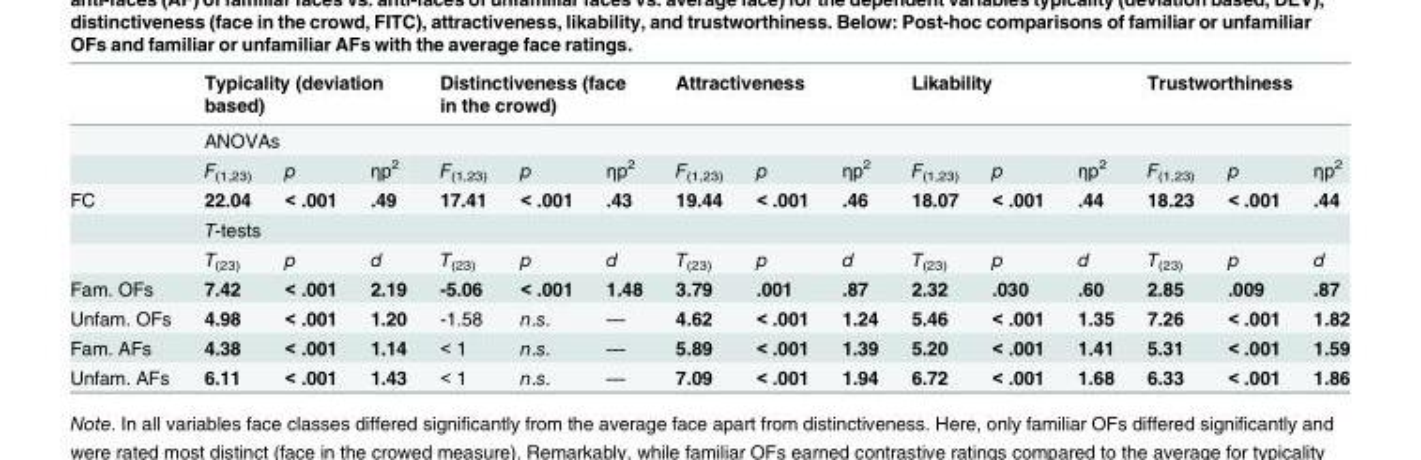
<table><thead><tr><td rowspan="3"></td><td colspan="3">Typicality (deviation based)</td><td colspan="3">Distinctiveness (face in the crowd)</td><td colspan="3">Attractiveness</td><td colspan="3">Likability</td><td colspan="3">Trustworthiness</td></tr><tr><td colspan="15">ANOVAs</td></tr><tr><td>F<sub>(1,23)</sub></td><td>p</td><td>ηp<sup>2</sup></td><td>F<sub>(1,23)</sub></td><td>p</td><td>ηp<sup>2</sup></td><td>F<sub>(1,23)</sub></td><td>p</td><td>ηp<sup>2</sup></td><td>F<sub>(1,23)</sub></td><td>p</td><td>ηp<sup>2</sup></td><td>F<sub>(1,23)</sub></td><td>p</td><td>ηp<sup>2</sup></td></tr></thead><tbody><tr><td rowspan="3">FC</td><td>22.04</td><td>&lt; .001</td><td>.49</td><td>17.41</td><td>&lt; .001</td><td>.43</td><td>19.44</td><td>&lt; .001</td><td>.46</td><td>18.07</td><td>&lt; .001</td><td>.44</td><td>18.23</td><td>&lt; .001</td><td>.44</td></tr><tr><td colspan="15">T-tests</td></tr><tr><td>T<sub>(23)</sub></td><td>p</td><td>d</td><td>T<sub>(23)</sub></td><td>p</td><td>d</td><td>T<sub>(23)</sub></td><td>p</td><td>d</td><td>T<sub>(23)</sub></td><td>p</td><td>d</td><td>T<sub>(23)</sub></td><td>p</td><td>d</td></tr><tr><td>Fam. OFs</td><td>7.42</td><td>&lt; .001</td><td>2.19</td><td>-5.06</td><td>&lt; .001</td><td>1.48</td><td>3.79</td><td>.001</td><td>.87</td><td>2.32</td><td>.030</td><td>.60</td><td>2.85</td><td>.009</td><td>.87</td></tr><tr><td>Unfam. OFs</td><td>4.98</td><td>&lt; .001</td><td>1.20</td><td>-1.58</td><td>n.s.</td><td>—</td><td>4.62</td><td>&lt; .001</td><td>1.24</td><td>5.46</td><td>&lt; .001</td><td>1.35</td><td>7.26</td><td>&lt; .001</td><td>1.82</td></tr><tr><td>Fam. AFs</td><td>4.38</td><td>&lt; .001</td><td>1.14</td><td>&lt; 1</td><td>n.s.</td><td>—</td><td>5.89</td><td>&lt; .001</td><td>1.39</td><td>5.20</td><td>&lt; .001</td><td>1.41</td><td>5.31</td><td>&lt; .001</td><td>1.59</td></tr><tr><td>Unfam. AFs</td><td>6.11</td><td>&lt; .001</td><td>1.43</td><td>&lt; 1</td><td>n.s.</td><td>—</td><td>7.09</td><td>&lt; .001</td><td>1.94</td><td>6.72</td><td>&lt; .001</td><td>1.68</td><td>6.33</td><td>&lt; .001</td><td>1.86</td></tr></tbody></table>